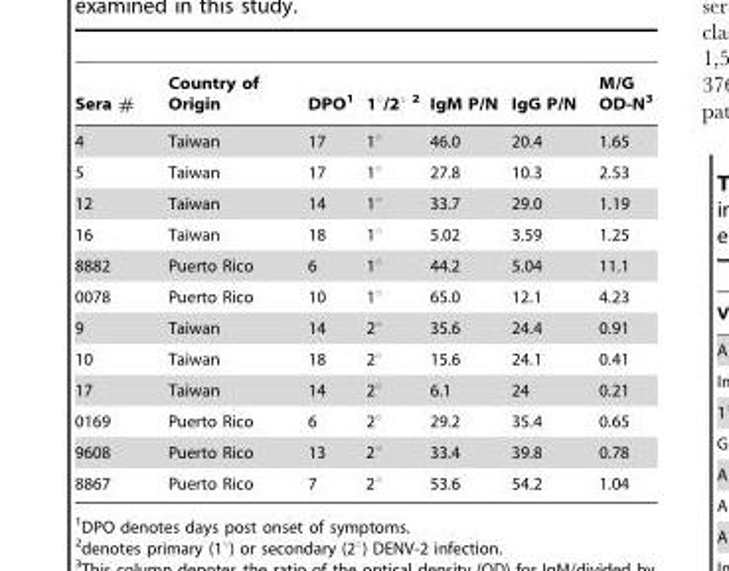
<table><thead><tr><td>Sera #</td><td>Country of Origin</td><td>DPO<sup>1</sup></td><td>1°/2° 2</td><td>IgM P/N</td><td>IgG P/N</td><td>M/G OD-N<sup>3</sup></td></tr></thead><tbody><tr><td>4</td><td>Taiwan</td><td>17</td><td>1°</td><td>46.0</td><td>20.4</td><td>1.65</td></tr><tr><td>5</td><td>Taiwan</td><td>17</td><td>1°</td><td>27.8</td><td>10.3</td><td>2.53</td></tr><tr><td>12</td><td>Taiwan</td><td>14</td><td>1°</td><td>33.7</td><td>29.0</td><td>1.19</td></tr><tr><td>16</td><td>Taiwan</td><td>18</td><td>1°</td><td>5.02</td><td>3.59</td><td>1.25</td></tr><tr><td>8882</td><td>Puerto Rico</td><td>6</td><td>1°</td><td>44.2</td><td>5.04</td><td>11.1</td></tr><tr><td>0078</td><td>Puerto Rico</td><td>10</td><td>1°</td><td>65.0</td><td>12.1</td><td>4.23</td></tr><tr><td>9</td><td>Taiwan</td><td>14</td><td>2°</td><td>35.6</td><td>24.4</td><td>0.91</td></tr><tr><td>10</td><td>Taiwan</td><td>18</td><td>2°</td><td>15.6</td><td>24.1</td><td>0.41</td></tr><tr><td>17</td><td>Taiwan</td><td>14</td><td>2°</td><td>6.1</td><td>24</td><td>0.21</td></tr><tr><td>0169</td><td>Puerto Rico</td><td>6</td><td>2°</td><td>29.2</td><td>35.4</td><td>0.65</td></tr><tr><td>9608</td><td>Puerto Rico</td><td>13</td><td>2°</td><td>33.4</td><td>39.8</td><td>0.78</td></tr><tr><td>8867</td><td>Puerto Rico</td><td>7</td><td>2°</td><td>53.6</td><td>54.2</td><td>1.04</td></tr></tbody></table>